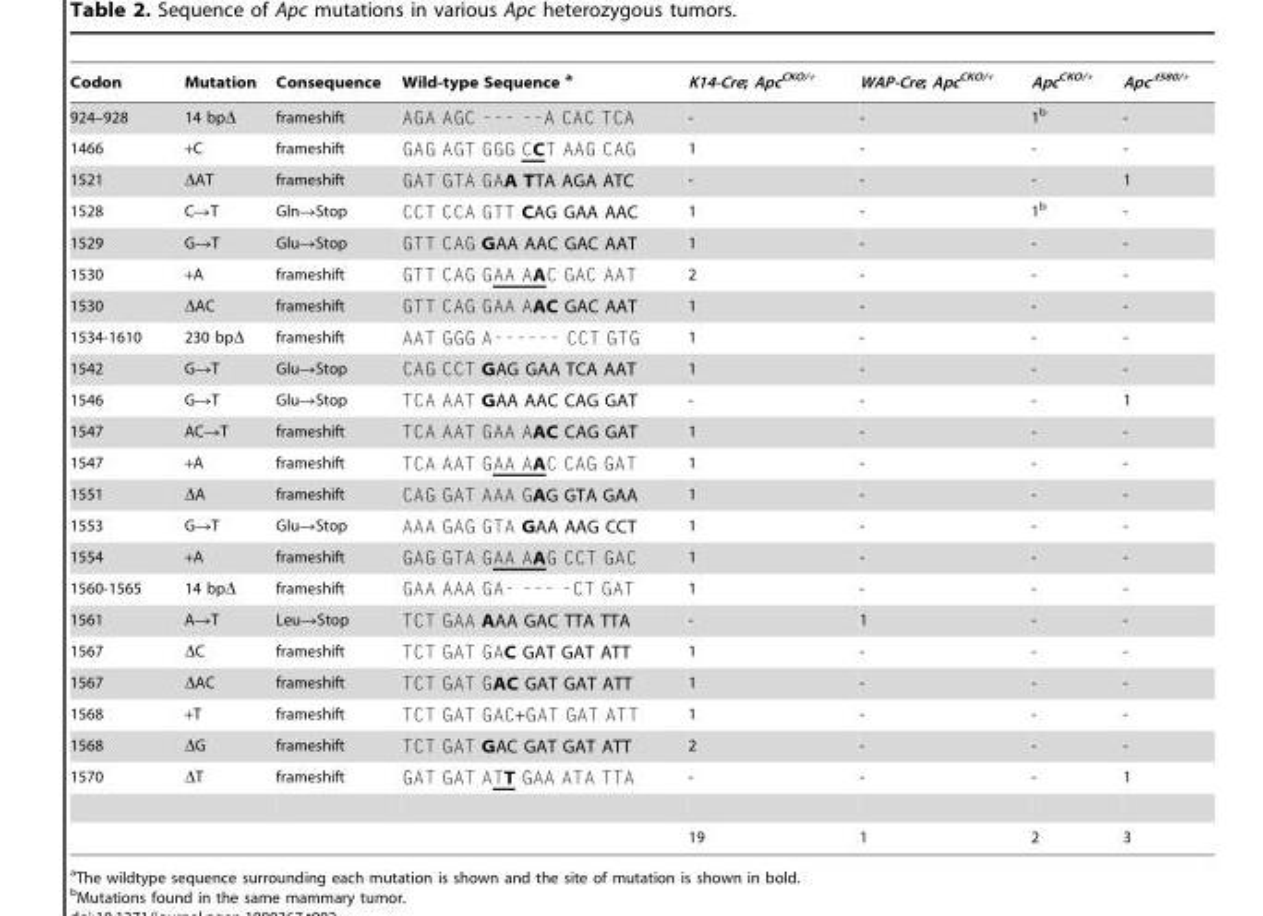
<table><thead><tr><td>Codon</td><td>Mutation</td><td>Consequence</td><td>Wild-type Sequence a</td><td>K14-Cre; Apc<sup>CKO/+</sup></td><td>WAP-Cre; Apc<sup>CKO/+</sup></td><td>Apc<sup>CKO/+</sup></td><td>Apc<sup>Δ580/+</sup></td></tr></thead><tbody><tr><td>924–928</td><td>14 bpΔ</td><td>frameshift</td><td>AGA AGC --- --A CAC TCA</td><td>-</td><td>-</td><td>1<sup>b</sup></td><td>-</td></tr><tr><td>1466</td><td>+C</td><td>frameshift</td><td>GAG AGT GGG CCT AAG CAG</td><td>1</td><td>-</td><td>-</td><td>-</td></tr><tr><td>1521</td><td>ΔAT</td><td>frameshift</td><td>GAT GTA GAA TTA AGA ATC</td><td>-</td><td>-</td><td>-</td><td>1</td></tr><tr><td>1528</td><td>C→T</td><td>Gln→Stop</td><td>CCT CCA GTT CAG GAA AAC</td><td>1</td><td>-</td><td>1<sup>b</sup></td><td>-</td></tr><tr><td>1529</td><td>G→T</td><td>Glu→Stop</td><td>GTT CAG GAA AAC GAC AAT</td><td>1</td><td>-</td><td>-</td><td>-</td></tr><tr><td>1530</td><td>+A</td><td>frameshift</td><td>GTT CAG GAA AAC GAC AAT</td><td>2</td><td>-</td><td>-</td><td>-</td></tr><tr><td>1530</td><td>ΔAC</td><td>frameshift</td><td>GTT CAG GAA AAC GAC AAT</td><td>1</td><td>-</td><td>-</td><td>-</td></tr><tr><td>1534-1610</td><td>230 bpΔ</td><td>frameshift</td><td>AAT GGG A------ CCT GTG</td><td>1</td><td>-</td><td>-</td><td>-</td></tr><tr><td>1542</td><td>G→T</td><td>Glu→Stop</td><td>CAG CCT GAG GAA TCA AAT</td><td>1</td><td>-</td><td>-</td><td>-</td></tr><tr><td>1546</td><td>G→T</td><td>Glu→Stop</td><td>TCA AAT GAA AAC CAG GAT</td><td>-</td><td>-</td><td>-</td><td>1</td></tr><tr><td>1547</td><td>AC→T</td><td>frameshift</td><td>TCA AAT GAA AAC CAG GAT</td><td>1</td><td>-</td><td>-</td><td>-</td></tr><tr><td>1547</td><td>+A</td><td>frameshift</td><td>TCA AAT GAA AAC CAG GAT</td><td>1</td><td>-</td><td>-</td><td>-</td></tr><tr><td>1551</td><td>ΔA</td><td>frameshift</td><td>CAG GAT AAA GAG GTA GAA</td><td>1</td><td>-</td><td>-</td><td>-</td></tr><tr><td>1553</td><td>G→T</td><td>Glu→Stop</td><td>AAA GAG GTA GAA AAG CCT</td><td>1</td><td>-</td><td>-</td><td>-</td></tr><tr><td>1554</td><td>+A</td><td>frameshift</td><td>GAG GTA GAA AAG CCT GAC</td><td>1</td><td>-</td><td>-</td><td>-</td></tr><tr><td>1560-1565</td><td>14 bpΔ</td><td>frameshift</td><td>GAA AAA GA- --- -CT GAT</td><td>1</td><td>-</td><td>-</td><td>-</td></tr><tr><td>1561</td><td>A→T</td><td>Leu→Stop</td><td>TCT GAA AAA GAC TTA TTA</td><td>-</td><td>1</td><td>-</td><td>-</td></tr><tr><td>1567</td><td>ΔC</td><td>frameshift</td><td>TCT GAT GAC GAT GAT ATT</td><td>1</td><td>-</td><td>-</td><td>-</td></tr><tr><td>1567</td><td>ΔAC</td><td>frameshift</td><td>TCT GAT GAC GAT GAT ATT</td><td>1</td><td>-</td><td>-</td><td>-</td></tr><tr><td>1568</td><td>+T</td><td>frameshift</td><td>TCT GAT GAC+GAT GAT ATT</td><td>1</td><td>-</td><td>-</td><td>-</td></tr><tr><td>1568</td><td>ΔG</td><td>frameshift</td><td>TCT GAT GAC GAT GAT ATT</td><td>2</td><td>-</td><td>-</td><td>-</td></tr><tr><td rowspan="2">1570</td><td>ΔT</td><td>frameshift</td><td>GAT GAT ATT GAA ATA TTA</td><td>-</td><td>-</td><td>-</td><td>1</td></tr><tr><td></td><td></td><td></td><td>19</td><td>1</td><td>2</td><td>3</td></tr></tbody></table>